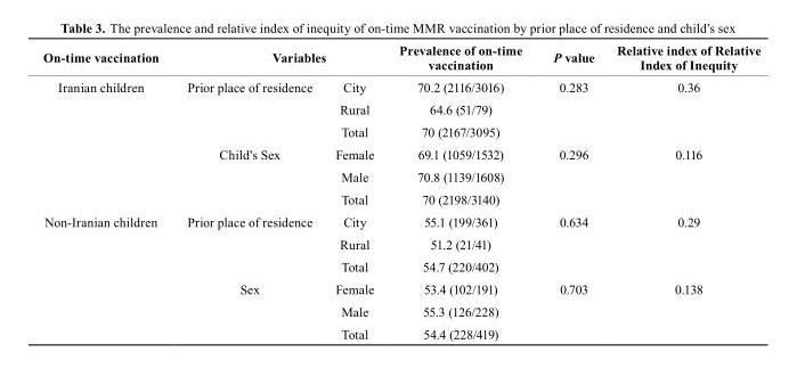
<table><thead><tr><td rowspan="2">On-time vaccination Iranian children</td><td colspan="2">Variables</td><td rowspan="2">Prevalence of on-time vaccination 70.2 (2116/3016)</td><td rowspan="2">P value 0.283</td><td rowspan="2">relative index of relative Index of Inequity 0.36</td></tr><tr><td>Prior place of residence</td><td>City</td></tr></thead><tbody><tr><td></td><td></td><td>Rural</td><td>64.6 (51/79)</td><td></td><td></td></tr><tr><td></td><td></td><td>Total</td><td>70 (2167/3095)</td><td></td><td></td></tr><tr><td></td><td>Child’s Sex</td><td>Female</td><td>69.1 (1059/1532)</td><td>0.296</td><td>0.116</td></tr><tr><td></td><td></td><td>Male</td><td>70.8 (1139/1608)</td><td></td><td></td></tr><tr><td></td><td></td><td>Total</td><td>70 (2198/3140)</td><td></td><td></td></tr><tr><td rowspan="6">Non-Iranian children</td><td>Prior place of residence</td><td>City</td><td>55.1 (199/361)</td><td>0.634</td><td>0.29</td></tr><tr><td></td><td>Rural</td><td>51.2 (21/41)</td><td></td><td></td></tr><tr><td></td><td>Total</td><td>54.7 (220/402)</td><td></td><td></td></tr><tr><td>Sex</td><td>Female</td><td>53.4 (102/191)</td><td>0.703</td><td>0.138</td></tr><tr><td></td><td>Male</td><td>55.3 (126/228)</td><td></td><td></td></tr><tr><td></td><td>Total</td><td>54.4 (228/419)</td><td></td><td></td></tr></tbody></table>